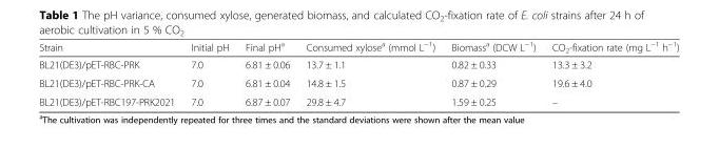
<table><thead><tr><td>Strain</td><td>Initial pH</td><td>Final pH<sup>a</sup></td><td>Consumed xylose<sup>a</sup> (mmol L<sup>−1</sup>)</td><td>Biomass<sup>a</sup> (DCW L<sup>−1</sup>)</td><td>CO<sub>2</sub>-fixation rate (mg L<sup>−1</sup> h<sup>−1</sup>)</td></tr></thead><tbody><tr><td>BL21(DE3)/pET-RBC-PRK</td><td>7.0</td><td>6.81 ± 0.06</td><td>13.7 ± 1.1</td><td>0.82 ± 0.33</td><td>13.3 ± 3.2</td></tr><tr><td>BL21(DE3)/pET-RBC-PRK-CA</td><td>7.0</td><td>6.81 ± 0.04</td><td>14.8 ± 1.5</td><td>0.87 ± 0.29</td><td>19.6 ± 4.0</td></tr><tr><td>BL21(DE3)/pET-RBC197-PRK2021</td><td>7.0</td><td>6.87 ± 0.07</td><td>29.8 ± 4.7</td><td>1.59 ± 0.25</td><td>–</td></tr></tbody></table>